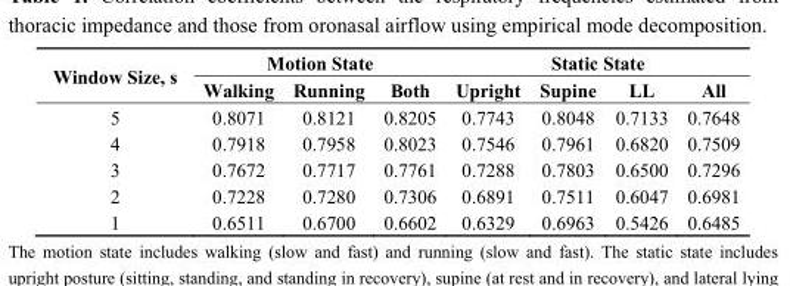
<table><thead><tr><td rowspan="2">Window Size, s</td><td colspan="3">Motion State</td><td colspan="4">Static State</td></tr><tr><td>Walking</td><td>Running</td><td>Both</td><td>Upright</td><td>Supine</td><td>LL</td><td>All</td></tr></thead><tbody><tr><td>5</td><td>0.8071</td><td>0.8121</td><td>0.8205</td><td>0.7743</td><td>0.8048</td><td>0.7133</td><td>0.7648</td></tr><tr><td>4</td><td>0.7918</td><td>0.7958</td><td>0.8023</td><td>0.7546</td><td>0.7961</td><td>0.6820</td><td>0.7509</td></tr><tr><td>3</td><td>0.7672</td><td>0.7717</td><td>0.7761</td><td>0.7288</td><td>0.7803</td><td>0.6500</td><td>0.7296</td></tr><tr><td>2</td><td>0.7228</td><td>0.7280</td><td>0.7306</td><td>0.6891</td><td>0.7511</td><td>0.6047</td><td>0.6981</td></tr><tr><td>1</td><td>0.6511</td><td>0.6700</td><td>0.6602</td><td>0.6329</td><td>0.6963</td><td>0.5426</td><td>0.6485</td></tr></tbody></table>